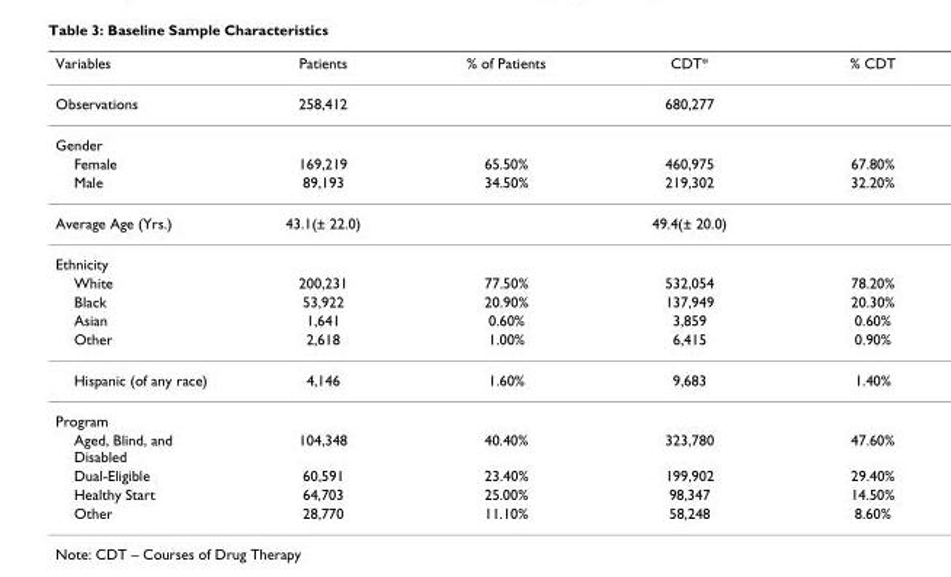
<table><thead><tr><td>Variables</td><td>Patients</td><td>% of Patients</td><td>CDT*</td><td>% CDT</td></tr></thead><tbody><tr><td>Observations</td><td>258,412</td><td></td><td>680,277</td><td></td></tr><tr><td colspan="5">Gender</td></tr><tr><td>Female</td><td>169,219</td><td>65.50%</td><td>460,975</td><td>67.80%</td></tr><tr><td>Male</td><td>89,193</td><td>34.50%</td><td>219,302</td><td>32.20%</td></tr><tr><td>Average Age (Yrs.)</td><td>43.1(± 22.0)</td><td></td><td>49.4(± 20.0)</td><td></td></tr><tr><td colspan="5">Ethnicity</td></tr><tr><td>White</td><td>200,231</td><td>77.50%</td><td>532,054</td><td>78.20%</td></tr><tr><td>Black</td><td>53,922</td><td>20.90%</td><td>137,949</td><td>20.30%</td></tr><tr><td>Asian</td><td>1,641</td><td>0.60%</td><td>3,859</td><td>0.60%</td></tr><tr><td>Other</td><td>2,618</td><td>1.00%</td><td>6,415</td><td>0.90%</td></tr><tr><td>Hispanic (of any race)</td><td>4,146</td><td>1.60%</td><td>9,683</td><td>1.40%</td></tr><tr><td colspan="5">Program</td></tr><tr><td>Aged, Blind, and Disabled</td><td>104,348</td><td>40.40%</td><td>323,780</td><td>47.60%</td></tr><tr><td>Dual-Eligible</td><td>60,591</td><td>23.40%</td><td>199,902</td><td>29.40%</td></tr><tr><td>Healthy Start</td><td>64,703</td><td>25.00%</td><td>98,347</td><td>14.50%</td></tr><tr><td>Other</td><td>28,770</td><td>11.10%</td><td>58,248</td><td>8.60%</td></tr></tbody></table>